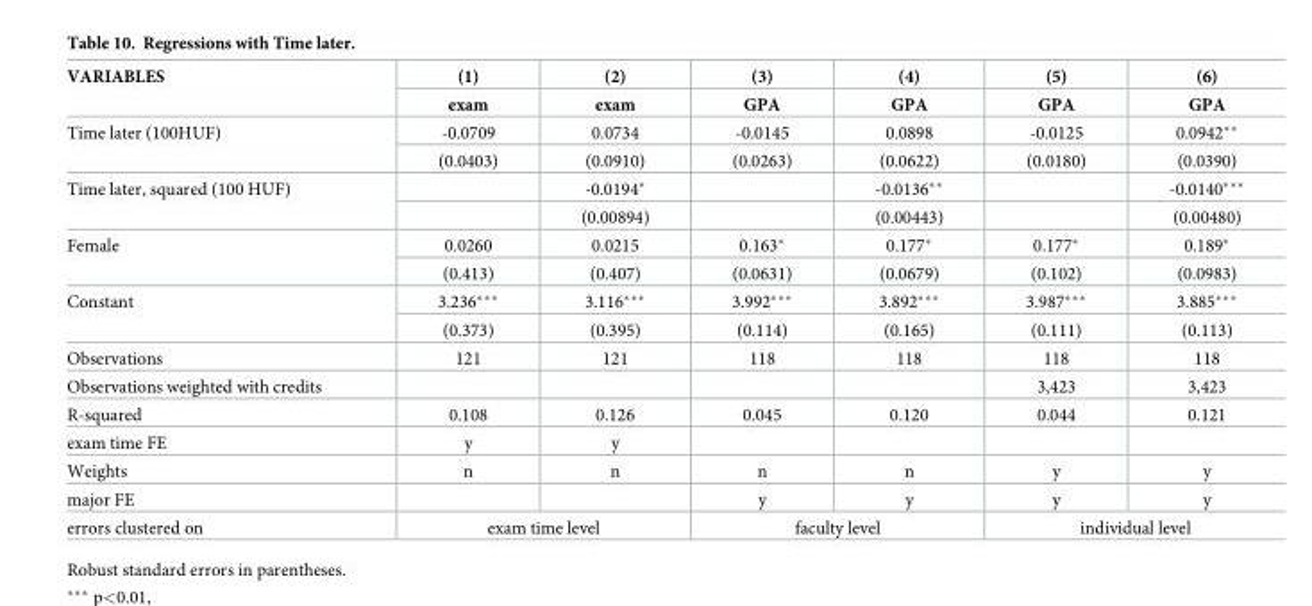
<table><thead><tr><td rowspan="2">VARIABLES</td><td rowspan="2">(1) exam</td><td rowspan="2">(2) exam</td><td rowspan="2">(3) GPA</td><td rowspan="2">(4) GPA</td><td rowspan="2">(5) GPA</td><td rowspan="2">(6) GPA</td></tr><tr></tr></thead><tbody><tr><td rowspan="2">Time later (100HUF)</td><td>-0.0709</td><td>0.0734</td><td>-0.0145</td><td>0.0898</td><td>-0.0125</td><td>0.0942**</td></tr><tr><td>(0.0403)</td><td>(0.0910)</td><td>(0.0263)</td><td>(0.0622)</td><td>(0.0180)</td><td>(0.0390)</td></tr><tr><td rowspan="2">Time later, squared (100 HUF)</td><td></td><td>-0.0194*</td><td></td><td>-0.0136**</td><td></td><td>-0.0140***</td></tr><tr><td></td><td>(0.00894)</td><td></td><td>(0.00443)</td><td></td><td>(0.00480)</td></tr><tr><td rowspan="2">Female</td><td>0.0260</td><td>0.0215</td><td>0.163*</td><td>0.177*</td><td>0.177*</td><td>0.189*</td></tr><tr><td>(0.413)</td><td>(0.407)</td><td>(0.0631)</td><td>(0.0679)</td><td>(0.102)</td><td>(0.0983)</td></tr><tr><td rowspan="2">Constant</td><td>3.236***</td><td>3.116***</td><td>3.992***</td><td>3.892***</td><td>3.987***</td><td>3.885***</td></tr><tr><td>(0.373)</td><td>(0.395)</td><td>(0.114)</td><td>(0.165)</td><td>(0.111)</td><td>(0.113)</td></tr><tr><td>Observations</td><td>121</td><td>121</td><td>118</td><td>118</td><td>118</td><td>118</td></tr><tr><td>Observations weighted with credits</td><td></td><td></td><td></td><td></td><td>3,423</td><td>3,423</td></tr><tr><td>R-squared</td><td>0.108</td><td>0.126</td><td>0.045</td><td>0.120</td><td>0.044</td><td>0.121</td></tr><tr><td>exam time FE</td><td>y</td><td>y</td><td></td><td></td><td></td><td></td></tr><tr><td>Weights</td><td>n</td><td>n</td><td>n</td><td>n</td><td>y</td><td>y</td></tr><tr><td>major FE</td><td></td><td></td><td>y</td><td>y</td><td>y</td><td>y</td></tr><tr><td>errors clustered on</td><td colspan="2">exam time level</td><td colspan="2">faculty level</td><td colspan="2">individual level</td></tr></tbody></table>